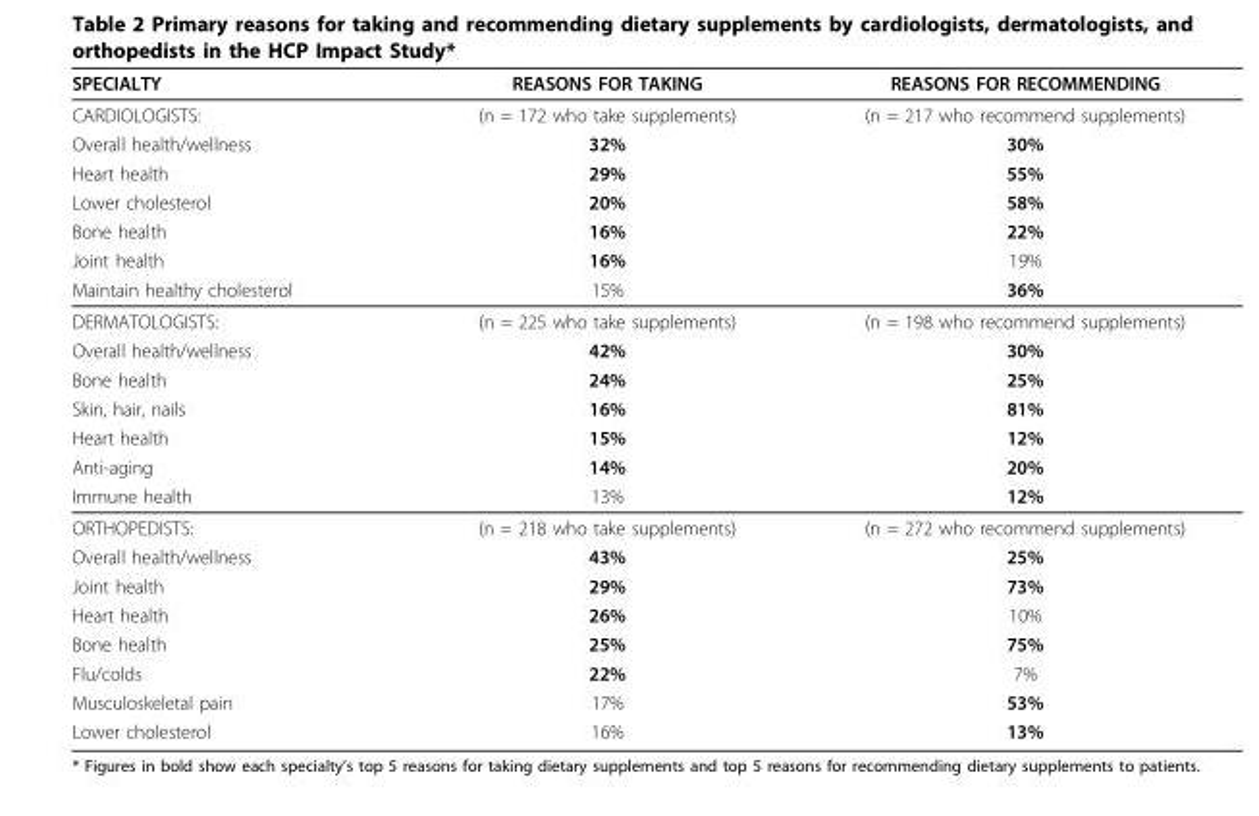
<table><thead><tr><td>SPECIALTY</td><td>REASONS FOR TAKING</td><td>REASONS FOR RECOMMENDING</td></tr></thead><tbody><tr><td>CARDIOLOGISTS:</td><td>(n = 172 who take supplements)</td><td>(n = 217 who recommend supplements)</td></tr><tr><td>Overall health/wellness</td><td>32%</td><td>30%</td></tr><tr><td>Heart health</td><td>29%</td><td>55%</td></tr><tr><td>Lower cholesterol</td><td>20%</td><td>58%</td></tr><tr><td>Bone health</td><td>16%</td><td>22%</td></tr><tr><td>Joint health</td><td>16%</td><td>19%</td></tr><tr><td>Maintain healthy cholesterol</td><td>15%</td><td>36%</td></tr><tr><td>DERMATOLOGISTS:</td><td>(n = 225 who take supplements)</td><td>(n = 198 who recommend supplements)</td></tr><tr><td>Overall health/wellness</td><td>42%</td><td>30%</td></tr><tr><td>Bone health</td><td>24%</td><td>25%</td></tr><tr><td>Skin, hair, nails</td><td>16%</td><td>81%</td></tr><tr><td>Heart health</td><td>15%</td><td>12%</td></tr><tr><td>Anti-aging</td><td>14%</td><td>20%</td></tr><tr><td>Immune health</td><td>13%</td><td>12%</td></tr><tr><td>ORTHOPEDISTS:</td><td>(n = 218 who take supplements)</td><td>(n = 272 who recommend supplements)</td></tr><tr><td>Overall health/wellness</td><td>43%</td><td>25%</td></tr><tr><td>Joint health</td><td>29%</td><td>73%</td></tr><tr><td>Heart health</td><td>26%</td><td>10%</td></tr><tr><td>Bone health</td><td>25%</td><td>75%</td></tr><tr><td>Flu/colds</td><td>22%</td><td>7%</td></tr><tr><td>Musculoskeletal pain</td><td>17%</td><td>53%</td></tr><tr><td>Lower cholesterol</td><td>16%</td><td>13%</td></tr></tbody></table>